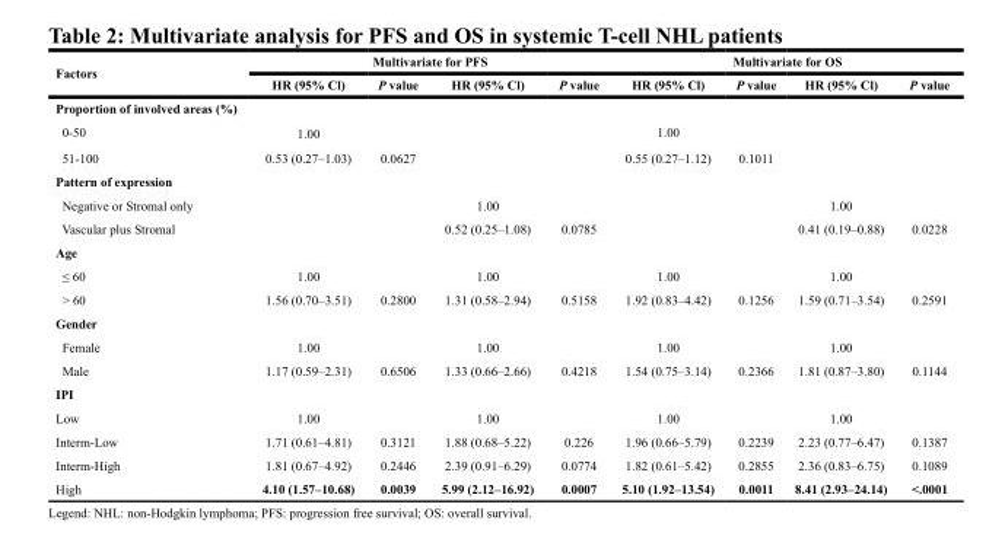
<table><thead><tr><td rowspan="2">Factors</td><td colspan="4">Multivariate for PFS</td><td colspan="4">Multivariate for OS</td></tr><tr><td>HR (95% Cl)</td><td>P value</td><td>HR (95% Cl)</td><td>P value</td><td>HR (95% Cl)</td><td>P value</td><td>HR (95% Cl)</td><td>P value</td></tr></thead><tbody><tr><td colspan="9">Proportion of involved areas (%)</td></tr><tr><td>0-50</td><td>1.00</td><td></td><td></td><td></td><td>1.00</td><td></td><td></td><td></td></tr><tr><td>51-100</td><td>0.53 (0.27–1.03)</td><td>0.0627</td><td></td><td></td><td>0.55 (0.27–1.12)</td><td>0.1011</td><td></td><td></td></tr><tr><td colspan="9">Pattern of expression</td></tr><tr><td>Negative or Stromal only</td><td></td><td></td><td>1.00</td><td></td><td></td><td></td><td>1.00</td><td></td></tr><tr><td>Vascular plus Stromal</td><td></td><td></td><td>0.52 (0.25–1.08)</td><td>0.0785</td><td></td><td></td><td>0.41 (0.19–0.88)</td><td>0.0228</td></tr><tr><td colspan="9">Age</td></tr><tr><td>≤ 60</td><td>1.00</td><td></td><td>1.00</td><td></td><td>1.00</td><td></td><td>1.00</td><td></td></tr><tr><td>&gt; 60</td><td>1.56 (0.70–3.51)</td><td>0.2800</td><td>1.31 (0.58–2.94)</td><td>0.5158</td><td>1.92 (0.83–4.42)</td><td>0.1256</td><td>1.59 (0.71–3.54)</td><td>0.2591</td></tr><tr><td colspan="9">Gender</td></tr><tr><td>Female</td><td>1.00</td><td></td><td>1.00</td><td></td><td>1.00</td><td></td><td>1.00</td><td></td></tr><tr><td>Male</td><td>1.17 (0.59–2.31)</td><td>0.6506</td><td>1.33 (0.66–2.66)</td><td>0.4218</td><td>1.54 (0.75–3.14)</td><td>0.2366</td><td>1.81 (0.87–3.80)</td><td>0.1144</td></tr><tr><td colspan="9">IPI</td></tr><tr><td>Low</td><td>1.00</td><td></td><td>1.00</td><td></td><td>1.00</td><td></td><td>1.00</td><td></td></tr><tr><td>Interm-Low</td><td>1.71 (0.61–4.81)</td><td>0.3121</td><td>1.88 (0.68–5.22)</td><td>0.226</td><td>1.96 (0.66–5.79)</td><td>0.2239</td><td>2.23 (0.77–6.47)</td><td>0.1387</td></tr><tr><td>Interm-High</td><td>1.81 (0.67–4.92)</td><td>0.2446</td><td>2.39 (0.91–6.29)</td><td>0.0774</td><td>1.82 (0.61–5.42)</td><td>0.2855</td><td>2.36 (0.83–6.75)</td><td>0.1089</td></tr><tr><td>High</td><td>4.10 (1.57–10.68)</td><td>0.0039</td><td>5.99 (2.12–16.92)</td><td>0.0007</td><td>5.10 (1.92–13.54)</td><td>0.0011</td><td>8.41 (2.93–24.14)</td><td>&lt;.0001</td></tr></tbody></table>